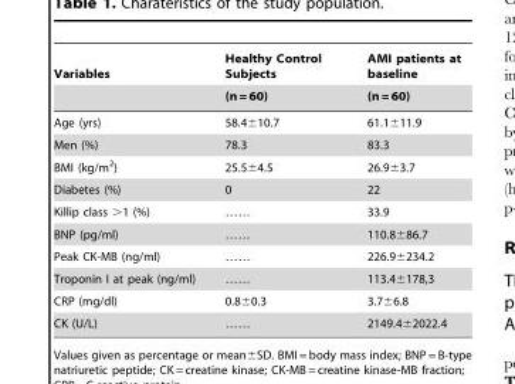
<table><thead><tr><td rowspan="2">Variables</td><td rowspan="2">Healthy Control Subjects (n = 60)</td><td rowspan="2">AMI patients at baseline (n = 60)</td></tr><tr></tr></thead><tbody><tr><td>Age (yrs)</td><td>58.4±10.7</td><td>61.1±11.9</td></tr><tr><td>Men (%)</td><td>78.3</td><td>83.3</td></tr><tr><td>BMI (kg/m<sup>2</sup>)</td><td>25.5±4.5</td><td>26.9±3.7</td></tr><tr><td>Diabetes (%)</td><td>0</td><td>22</td></tr><tr><td>Killip class &gt;1 (%)</td><td>……</td><td>33.9</td></tr><tr><td>BNP (pg/ml)</td><td>……</td><td>110.8±86.7</td></tr><tr><td>Peak CK-MB (ng/ml)</td><td>……</td><td>226.9±234.2</td></tr><tr><td>Troponin I at peak (ng/ml)</td><td>……</td><td>113.4±178,3</td></tr><tr><td>CRP (mg/dl)</td><td>0.8±0.3</td><td>3.7±6.8</td></tr><tr><td>CK (U/L)</td><td>……</td><td>2149.4±2022.4</td></tr></tbody></table>